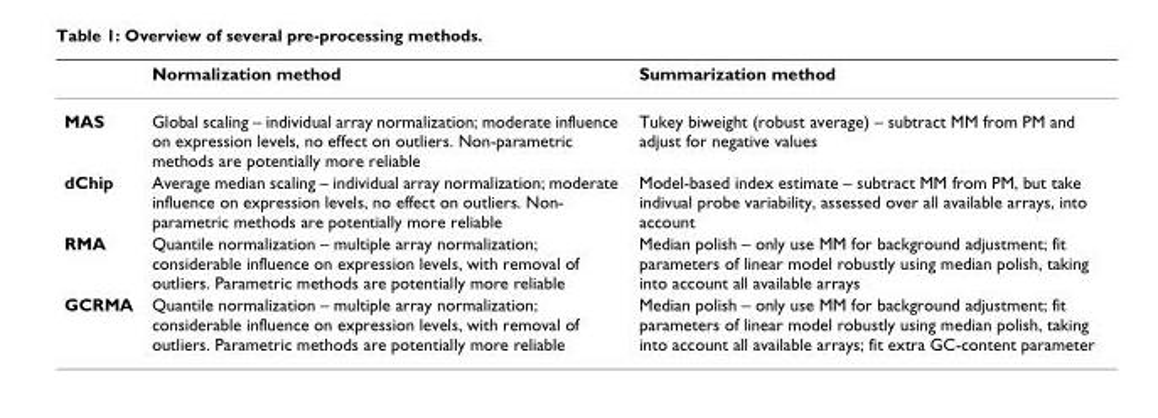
<table><thead><tr><td></td><td>Normalization method</td><td>Summarization method</td></tr></thead><tbody><tr><td>MAS</td><td>Global scaling – individual array normalization; moderate influence on expression levels, no effect on outliers. Non-parametric methods are potentially more reliable</td><td>Tukey biweight (robust average) – subtract MM from PM and adjust for negative values</td></tr><tr><td>dChip</td><td>Average median scaling – individual array normalization; moderate influence on expression levels, no effect on outliers. Non- parametric methods are potentially more reliable</td><td>Model-based index estimate – subtract MM from PM, but take indivual probe variability, assessed over all available arrays, into account</td></tr><tr><td>RMA</td><td>Quantile normalization – multiple array normalization; considerable influence on expression levels, with removal of outliers. Parametric methods are potentially more reliable</td><td>Median polish – only use MM for background adjustment; fit parameters of linear model robustly using median polish, taking into account all available arrays</td></tr><tr><td>GCRMA</td><td>Quantile normalization – multiple array normalization; considerable influence on expression levels, with removal of outliers. Parametric methods are potentially more reliable</td><td>Median polish – only use MM for background adjustment; fit parameters of linear model robustly using median polish, taking into account all available arrays; fit extra GC-content parameter</td></tr></tbody></table>